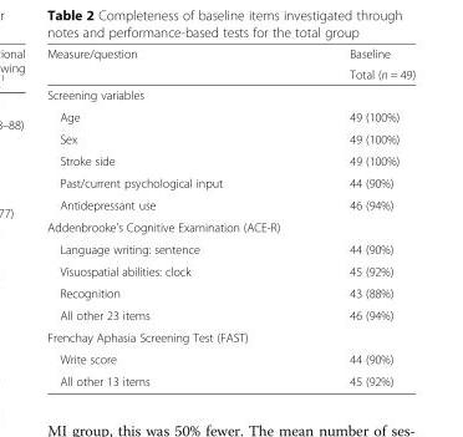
<table><thead><tr><td rowspan="2">Measure/question</td><td rowspan="2">Baseline Total (n = 49)</td></tr><tr></tr></thead><tbody><tr><td colspan="2">Screening variables</td></tr><tr><td>Age</td><td>49 (100%)</td></tr><tr><td>Sex</td><td>49 (100%)</td></tr><tr><td>Stroke side</td><td>49 (100%)</td></tr><tr><td>Past/current psychological input</td><td>44 (90%)</td></tr><tr><td>Antidepressant use</td><td>46 (94%)</td></tr><tr><td colspan="2">Addenbrooke’s Cognitive Examination (ACE-R)</td></tr><tr><td>Language writing: sentence</td><td>44 (90%)</td></tr><tr><td>Visuospatial abilities: clock</td><td>45 (92%)</td></tr><tr><td>Recognition</td><td>43 (88%)</td></tr><tr><td>All other 23 items</td><td>46 (94%)</td></tr><tr><td colspan="2">Frenchay Aphasia Screening Test (FAST)</td></tr><tr><td>Write score</td><td>44 (90%)</td></tr><tr><td>All other 13 items</td><td>45 (92%)</td></tr></tbody></table>